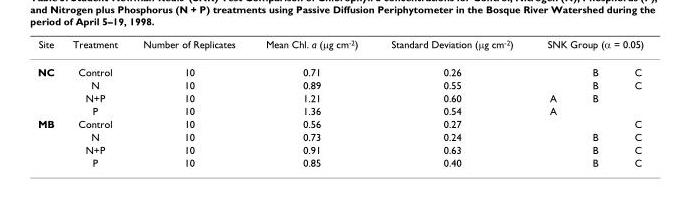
<table><thead><tr><td rowspan="2">Site NC</td><td rowspan="2">Treatment Control</td><td rowspan="2">Number of Replicates 10</td><td rowspan="2">Mean Chl. a (μg cm<sup>-2</sup>) 0.71</td><td rowspan="2">Standard Deviation (μg cm<sup>-2</sup>) 0.26</td><td colspan="3">SNK Group (α = 0.05)</td></tr><tr><td></td><td>B</td><td>C</td></tr></thead><tbody><tr><td></td><td>N</td><td>10</td><td>0.89</td><td>0.55</td><td></td><td>B</td><td>C</td></tr><tr><td></td><td>N+P</td><td>10</td><td>1.21</td><td>0.60</td><td>A</td><td>B</td><td></td></tr><tr><td></td><td>P</td><td>10</td><td>1.36</td><td>0.54</td><td>A</td><td></td><td></td></tr><tr><td rowspan="4">MB</td><td>Control</td><td>10</td><td>0.56</td><td>0.27</td><td></td><td></td><td>C</td></tr><tr><td>N</td><td>10</td><td>0.73</td><td>0.24</td><td></td><td>B</td><td>C</td></tr><tr><td>N+P</td><td>10</td><td>0.91</td><td>0.63</td><td></td><td>B</td><td>C</td></tr><tr><td>P</td><td>10</td><td>0.85</td><td>0.40</td><td></td><td>B</td><td>C</td></tr></tbody></table>